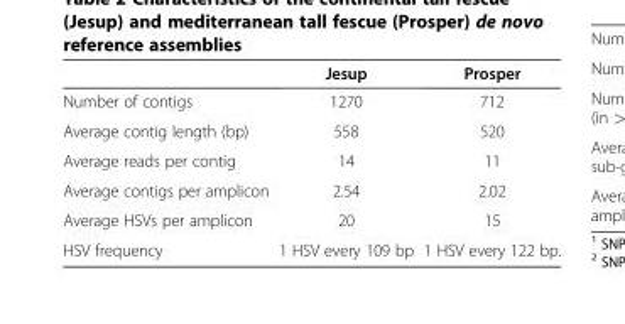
<table><thead><tr><td></td><td>Jesup</td><td>Prosper</td></tr></thead><tbody><tr><td>Number of contigs</td><td>1270</td><td>712</td></tr><tr><td>Average contig length (bp)</td><td>558</td><td>520</td></tr><tr><td>Average reads per contig</td><td>14</td><td>11</td></tr><tr><td>Average contigs per amplicon</td><td>2.54</td><td>2.02</td></tr><tr><td>Average HSVs per amplicon</td><td>20</td><td>15</td></tr><tr><td>HSV frequency</td><td>1 HSV every 109 bp</td><td>1 HSV every 122 bp.</td></tr></tbody></table>